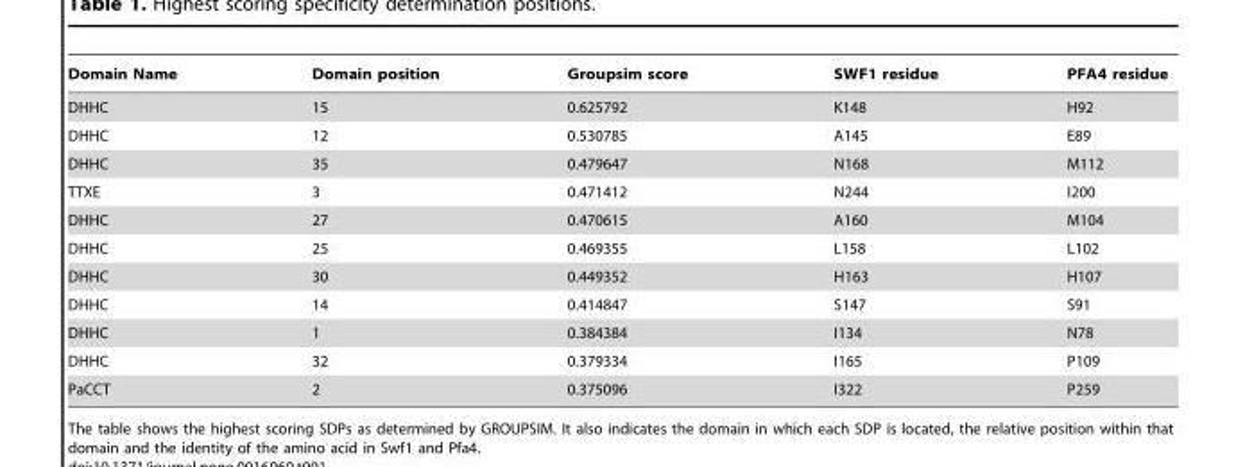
<table><thead><tr><td>Domain Name</td><td>Domain position</td><td>Groupsim score</td><td>SWF1 residue</td><td>PFA4 residue</td></tr></thead><tbody><tr><td>DHHC</td><td>15</td><td>0.625792</td><td>K148</td><td>H92</td></tr><tr><td>DHHC</td><td>12</td><td>0.530785</td><td>A145</td><td>E89</td></tr><tr><td>DHHC</td><td>35</td><td>0.479647</td><td>N168</td><td>M112</td></tr><tr><td>TTXE</td><td>3</td><td>0.471412</td><td>N244</td><td>I200</td></tr><tr><td>DHHC</td><td>27</td><td>0.470615</td><td>A160</td><td>M104</td></tr><tr><td>DHHC</td><td>25</td><td>0.469355</td><td>L158</td><td>L102</td></tr><tr><td>DHHC</td><td>30</td><td>0.449352</td><td>H163</td><td>H107</td></tr><tr><td>DHHC</td><td>14</td><td>0.414847</td><td>S147</td><td>S91</td></tr><tr><td>DHHC</td><td>1</td><td>0.384384</td><td>I134</td><td>N78</td></tr><tr><td>DHHC</td><td>32</td><td>0.379334</td><td>I165</td><td>P109</td></tr><tr><td>PaCCT</td><td>2</td><td>0.375096</td><td>I322</td><td>P259</td></tr></tbody></table>